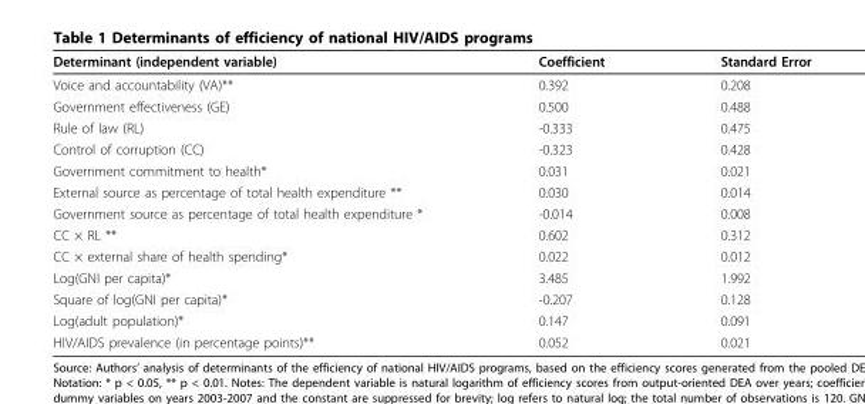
<table><thead><tr><td>Determinant (independent variable)</td><td>Coefficient</td><td>Standard Error</td></tr></thead><tbody><tr><td>Voice and accountability (VA)**</td><td>0.392</td><td>0.208</td></tr><tr><td>Government effectiveness (GE)</td><td>0.500</td><td>0.488</td></tr><tr><td>Rule of law (RL)</td><td>-0.333</td><td>0.475</td></tr><tr><td>Control of corruption (CC)</td><td>-0.323</td><td>0.428</td></tr><tr><td>Government commitment to health*</td><td>0.031</td><td>0.021</td></tr><tr><td>External source as percentage of total health expenditure **</td><td>0.030</td><td>0.014</td></tr><tr><td>Government source as percentage of total health expenditure *</td><td>-0.014</td><td>0.008</td></tr><tr><td>CC × RL **</td><td>0.602</td><td>0.312</td></tr><tr><td>CC × external share of health spending*</td><td>0.022</td><td>0.012</td></tr><tr><td>Log(GNI per capita)*</td><td>3.485</td><td>1.992</td></tr><tr><td>Square of log(GNI per capita)*</td><td>-0.207</td><td>0.128</td></tr><tr><td>Log(adult population)*</td><td>0.147</td><td>0.091</td></tr><tr><td>HIV/AIDS prevalence (in percentage points)**</td><td>0.052</td><td>0.021</td></tr></tbody></table>